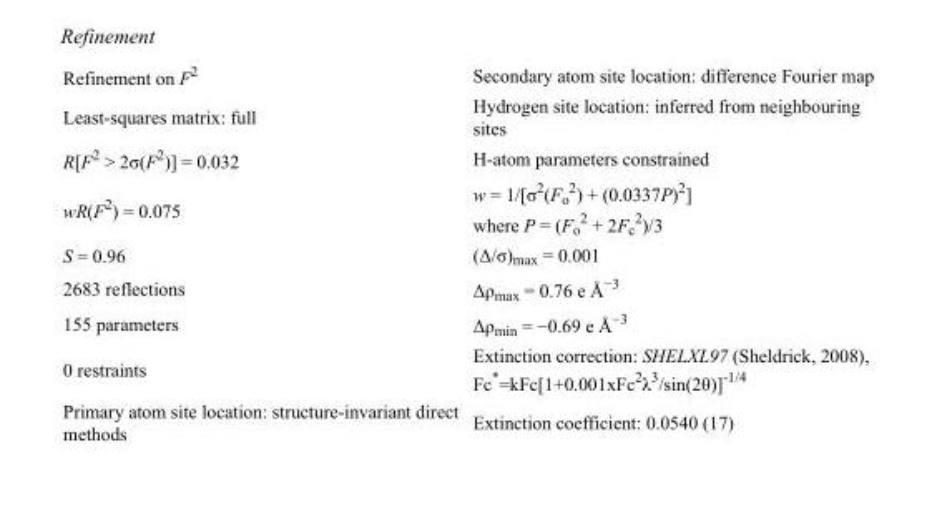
<table><tbody><tr><td>Refinement on F<sup>2</sup></td><td>Secondary atom site location: difference Fourier map</td></tr><tr><td>Least-squares matrix: full</td><td>Hydrogen site location: inferred from neighbouring sites</td></tr><tr><td>R[F<sup>2</sup> &gt; 2σ(F<sup>2</sup>)] = 0.032</td><td>H-atom parameters constrained</td></tr><tr><td>wR(F<sup>2</sup>) = 0.075</td><td>w = 1/[σ<sup>2</sup>(F<sub>o</sub> <sup>2</sup>) + (0.0337P)<sup>2</sup>] where P = (F<sub>o</sub> <sup>2</sup> + 2F<sub>c</sub> <sup>2</sup>)/3</td></tr><tr><td>S = 0.96</td><td>(Δ/σ)<sub>max</sub> = 0.001</td></tr><tr><td>2683 reflections</td><td>Δρ<sub>max</sub> = 0.76 e Å<sup>−3</sup></td></tr><tr><td>155 parameters</td><td>Δρ<sub>min</sub> = −0.69 e Å<sup>−3</sup></td></tr><tr><td>0 restraints</td><td>Extinction correction: SHELXL97 (Sheldrick, 2008), Fc*=kFc[1+0.001xFc<sup>2</sup>λ<sup>3</sup>/sin(2θ)]<sup>-1/4</sup></td></tr><tr><td>Primary atom site location: structure-invariant direct methods</td><td>Extinction coefficient: 0.0540 (17)</td></tr></tbody></table>